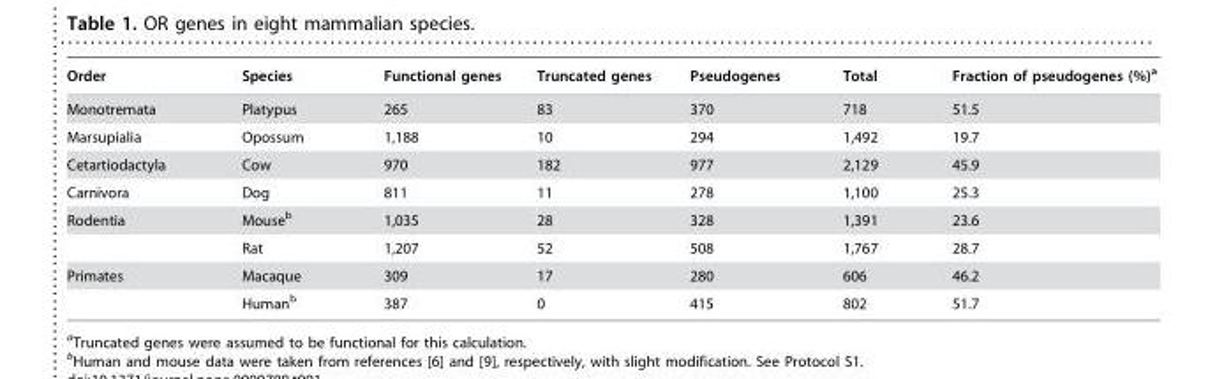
<table><thead><tr><td>Order</td><td>Species</td><td>Functional genes</td><td>Truncated genes</td><td>Pseudogenes</td><td>Total</td><td>Fraction of pseudogenes (%)<sup>a</sup></td></tr></thead><tbody><tr><td>Monotremata</td><td>Platypus</td><td>265</td><td>83</td><td>370</td><td>718</td><td>51.5</td></tr><tr><td>Marsupialia</td><td>Opossum</td><td>1,188</td><td>10</td><td>294</td><td>1,492</td><td>19.7</td></tr><tr><td>Cetartiodactyla</td><td>Cow</td><td>970</td><td>182</td><td>977</td><td>2,129</td><td>45.9</td></tr><tr><td>Carnivora</td><td>Dog</td><td>811</td><td>11</td><td>278</td><td>1,100</td><td>25.3</td></tr><tr><td rowspan="2">Rodentia</td><td>Mouse<sup>b</sup></td><td>1,035</td><td>28</td><td>328</td><td>1,391</td><td>23.6</td></tr><tr><td>Rat</td><td>1,207</td><td>52</td><td>508</td><td>1,767</td><td>28.7</td></tr><tr><td rowspan="2">Primates</td><td>Macaque</td><td>309</td><td>17</td><td>280</td><td>606</td><td>46.2</td></tr><tr><td>Human<sup>b</sup></td><td>387</td><td>0</td><td>415</td><td>802</td><td>51.7</td></tr></tbody></table>